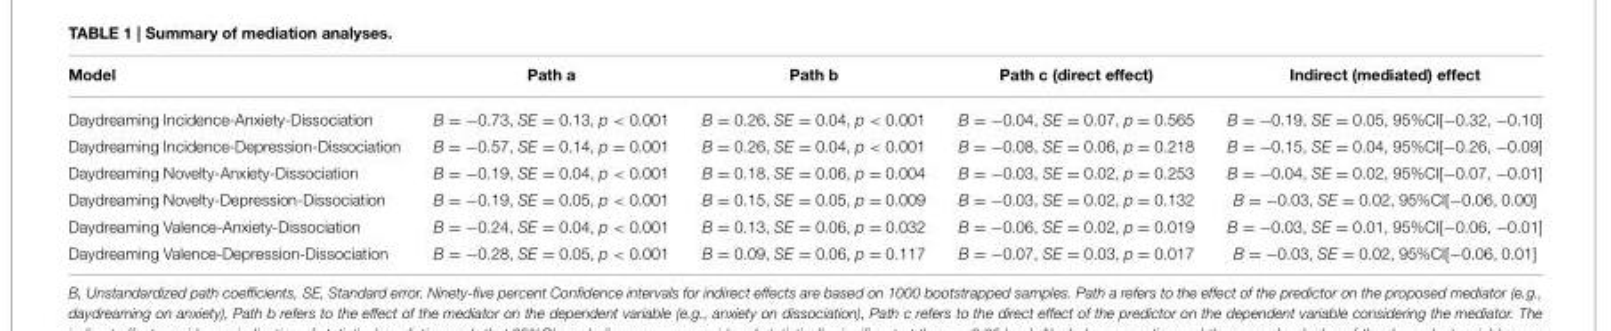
<table><thead><tr><td>Model</td><td>Path a</td><td>Path b</td><td>Path c (direct effect)</td><td>Indirect (mediated) effect</td></tr></thead><tbody><tr><td>Daydreaming Incidence-Anxiety-Dissociation</td><td>B = −0.73, SE = 0.13, p &lt; 0.001</td><td>B = 0.26, SE = 0.04, p &lt; 0.001</td><td>B = −0.04, SE = 0.07, p = 0.565</td><td>B = −0.19, SE = 0.05, 95%CI[−0.32, −0.10]</td></tr><tr><td>Daydreaming Incidence-Depression-Dissociation</td><td>B = −0.57, SE = 0.14, p = 0.001</td><td>B = 0.26, SE = 0.04, p &lt; 0.001</td><td>B = −0.08, SE = 0.06, p = 0.218</td><td>B = −0.15, SE = 0.04, 95%CI[−0.26, −0.09]</td></tr><tr><td>Daydreaming Novelty-Anxiety-Dissociation</td><td>B = −0.19, SE = 0.04, p &lt; 0.001</td><td>B = 0.18, SE = 0.06, p = 0.004</td><td>B = −0.03, SE = 0.02, p = 0.253</td><td>B = −0.04, SE = 0.02, 95%CI[−0.07, −0.01]</td></tr><tr><td>Daydreaming Novelty-Depression-Dissociation</td><td>B = −0.19, SE = 0.05, p &lt; 0.001</td><td>B = 0.15, SE = 0.05, p = 0.009</td><td>B = −0.03, SE = 0.02, p = 0.132</td><td>B = −0.03, SE = 0.02, 95%CI[−0.06, 0.00]</td></tr><tr><td>Daydreaming Valence-Anxiety-Dissociation</td><td>B = −0.24, SE = 0.04, p &lt; 0.001</td><td>B = 0.13, SE = 0.06, p = 0.032</td><td>B = −0.06, SE = 0.02, p = 0.019</td><td>B = −0.03, SE = 0.01, 95%CI[−0.06, −0.01]</td></tr><tr><td>Daydreaming Valence-Depression-Dissociation</td><td>B = −0.28, SE = 0.05, p &lt; 0.001</td><td>B = 0.09, SE = 0.06, p = 0.117</td><td>B = −0.07, SE = 0.03, p = 0.017</td><td>B = −0.03, SE = 0.02, 95%CI[−0.06, 0.01]</td></tr></tbody></table>